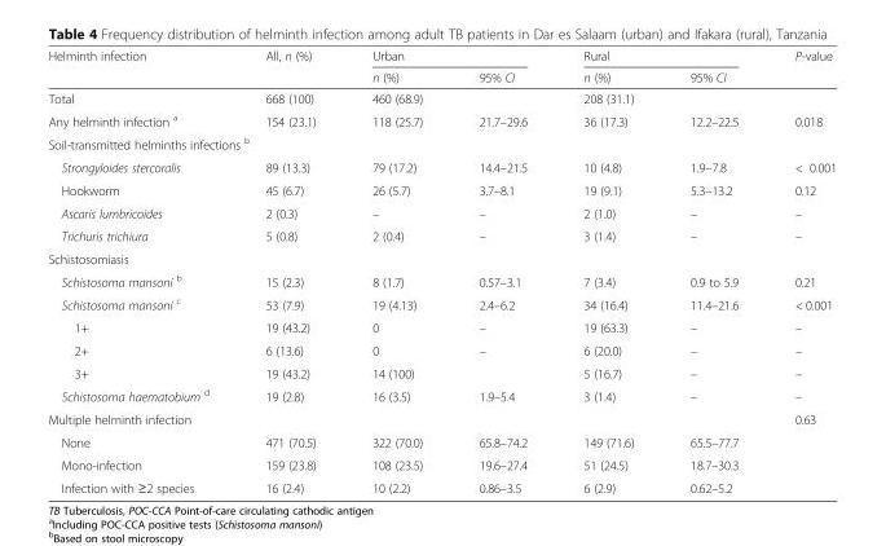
<table><thead><tr><td rowspan="2">Helminth infection</td><td rowspan="2">All, n (%)</td><td colspan="2">Urban</td><td colspan="2">Rural</td><td rowspan="2">P-value</td></tr><tr><td>n (%)</td><td>95% CI</td><td>n (%)</td><td>95% CI</td></tr></thead><tbody><tr><td>Total</td><td>668 (100)</td><td>460 (68.9)</td><td></td><td>208 (31.1)</td><td></td><td></td></tr><tr><td>Any helminth infection <sup>a</sup></td><td>154 (23.1)</td><td>118 (25.7)</td><td>21.7–29.6</td><td>36 (17.3)</td><td>12.2–22.5</td><td>0.018</td></tr><tr><td colspan="7">Soil-transmitted helminths infections <sup>b</sup></td></tr><tr><td>Strongyloides stercoralis</td><td>89 (13.3)</td><td>79 (17.2)</td><td>14.4–21.5</td><td>10 (4.8)</td><td>1.9–7.8</td><td>&lt; 0.001</td></tr><tr><td>Hookworm</td><td>45 (6.7)</td><td>26 (5.7)</td><td>3.7–8.1</td><td>19 (9.1)</td><td>5.3–13.2</td><td>0.12</td></tr><tr><td>Ascaris lumbricoides</td><td>2 (0.3)</td><td>–</td><td>–</td><td>2 (1.0)</td><td>–</td><td>–</td></tr><tr><td>Trichuris trichiura</td><td>5 (0.8)</td><td>2 (0.4)</td><td>–</td><td>3 (1.4)</td><td>–</td><td>–</td></tr><tr><td colspan="7">Schistosomiasis</td></tr><tr><td>Schistosoma mansoni <sup>b</sup></td><td>15 (2.3)</td><td>8 (1.7)</td><td>0.57–3.1</td><td>7 (3.4)</td><td>0.9 to 5.9</td><td>0.21</td></tr><tr><td>Schistosoma mansoni <sup>c</sup></td><td>53 (7.9)</td><td>19 (4.13)</td><td>2.4–6.2</td><td>34 (16.4)</td><td>11.4–21.6</td><td>&lt; 0.001</td></tr><tr><td>1+</td><td>19 (43.2)</td><td>0</td><td>–</td><td>19 (63.3)</td><td>–</td><td>–</td></tr><tr><td>2+</td><td>6 (13.6)</td><td>0</td><td>–</td><td>6 (20.0)</td><td>–</td><td>–</td></tr><tr><td>3+</td><td>19 (43.2)</td><td>14 (100)</td><td></td><td>5 (16.7)</td><td>–</td><td>–</td></tr><tr><td>Schistosoma haematobium <sup>d</sup></td><td>19 (2.8)</td><td>16 (3.5)</td><td>1.9–5.4</td><td>3 (1.4)</td><td>–</td><td>–</td></tr><tr><td colspan="6">Multiple helminth infection</td><td>0.63</td></tr><tr><td>None</td><td>471 (70.5)</td><td>322 (70.0)</td><td>65.8–74.2</td><td>149 (71.6)</td><td>65.5–77.7</td><td></td></tr><tr><td>Mono-infection</td><td>159 (23.8)</td><td>108 (23.5)</td><td>19.6–27.4</td><td>51 (24.5)</td><td>18.7–30.3</td><td></td></tr><tr><td>Infection with ≥2 species</td><td>16 (2.4)</td><td>10 (2.2)</td><td>0.86–3.5</td><td>6 (2.9)</td><td>0.62–5.2</td><td></td></tr></tbody></table>